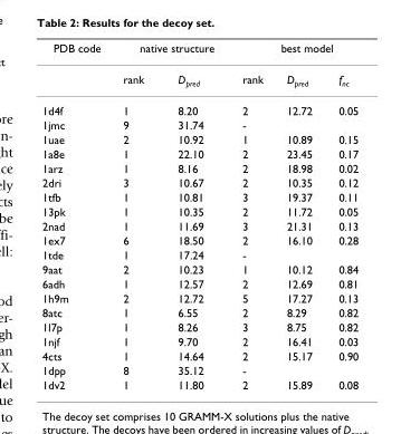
<table><thead><tr><td rowspan="2">PDB code</td><td colspan="2">native structure</td><td colspan="3">best model</td></tr><tr><td>rank</td><td>Dpred</td><td>rank</td><td>Dpred</td><td>fnc</td></tr></thead><tbody><tr><td>1d4f</td><td>1</td><td>8.20</td><td>2</td><td>12.72</td><td>0.05</td></tr><tr><td>1jmc</td><td>9</td><td>31.74</td><td>-</td><td></td><td></td></tr><tr><td>1uae</td><td>2</td><td>10.92</td><td>1</td><td>10.89</td><td>0.15</td></tr><tr><td>1a8e</td><td>1</td><td>22.10</td><td>2</td><td>23.45</td><td>0.17</td></tr><tr><td>1arz</td><td>1</td><td>8.16</td><td>2</td><td>18.98</td><td>0.02</td></tr><tr><td>2dri</td><td>3</td><td>10.67</td><td>2</td><td>10.35</td><td>0.12</td></tr><tr><td>1tfb</td><td>1</td><td>10.81</td><td>3</td><td>19.37</td><td>0.11</td></tr><tr><td>13pk</td><td>1</td><td>10.35</td><td>2</td><td>11.72</td><td>0.05</td></tr><tr><td>2nad</td><td>1</td><td>11.69</td><td>3</td><td>21.31</td><td>0.13</td></tr><tr><td>1ex7</td><td>6</td><td>18.50</td><td>2</td><td>16.10</td><td>0.28</td></tr><tr><td>1tde</td><td>1</td><td>17.24</td><td>-</td><td></td><td></td></tr><tr><td>9aat</td><td>2</td><td>10.23</td><td>1</td><td>10.12</td><td>0.84</td></tr><tr><td>6adh</td><td>1</td><td>12.57</td><td>2</td><td>12.69</td><td>0.81</td></tr><tr><td>1h9m</td><td>2</td><td>12.72</td><td>5</td><td>17.27</td><td>0.13</td></tr><tr><td>8atc</td><td>1</td><td>6.55</td><td>2</td><td>8.29</td><td>0.82</td></tr><tr><td>1l7p</td><td>1</td><td>8.26</td><td>3</td><td>8.75</td><td>0.82</td></tr><tr><td>1njf</td><td>1</td><td>9.70</td><td>2</td><td>16.41</td><td>0.03</td></tr><tr><td>4cts</td><td>1</td><td>14.64</td><td>2</td><td>15.17</td><td>0.90</td></tr><tr><td>1dpp</td><td>8</td><td>35.12</td><td>-</td><td></td><td></td></tr><tr><td>1dv2</td><td>1</td><td>11.80</td><td>2</td><td>15.89</td><td>0.08</td></tr></tbody></table>